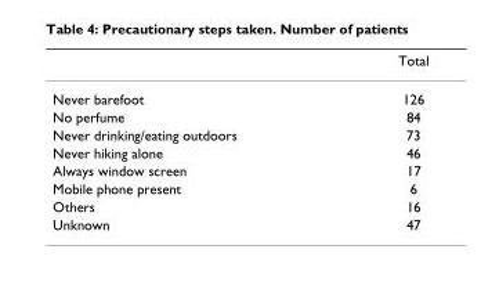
<table><thead><tr><td></td><td>Total</td></tr></thead><tbody><tr><td>Never barefoot</td><td>126</td></tr><tr><td>No perfume</td><td>84</td></tr><tr><td>Never drinking/eating outdoors</td><td>73</td></tr><tr><td>Never hiking alone</td><td>46</td></tr><tr><td>Always window screen</td><td>17</td></tr><tr><td>Mobile phone present</td><td>6</td></tr><tr><td>Others</td><td>16</td></tr><tr><td>Unknown</td><td>47</td></tr></tbody></table>